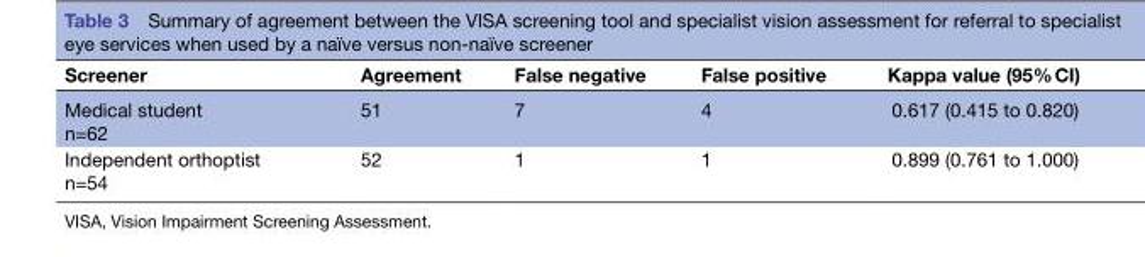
<table><thead><tr><td>Screener</td><td>Agreement</td><td>False negative</td><td>False positive</td><td>Kappa value (95% CI)</td></tr></thead><tbody><tr><td>Medical student n=62</td><td>51</td><td>7</td><td>4</td><td>0.617 (0.415 to 0.820)</td></tr><tr><td>Independent orthoptist n=54</td><td>52</td><td>1</td><td>1</td><td>0.899 (0.761 to 1.000)</td></tr></tbody></table>